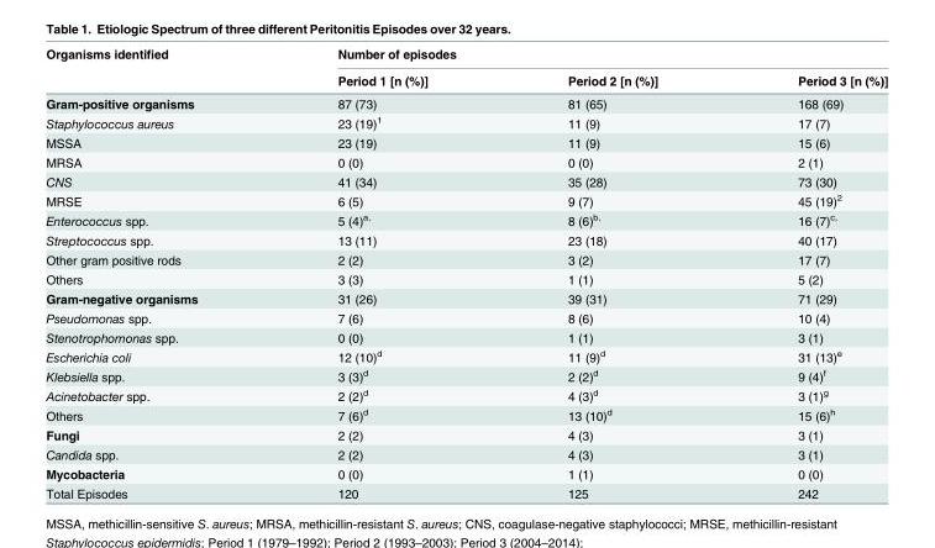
<table><thead><tr><td rowspan="2">Organisms identified</td><td colspan="3">Number of episodes</td></tr><tr><td>Period 1 [n (%)]</td><td>Period 2 [n (%)]</td><td>Period 3 [n (%)]</td></tr></thead><tbody><tr><td>Gram-positive organisms</td><td>87 (73)</td><td>81 (65)</td><td>168 (69)</td></tr><tr><td>Staphylococcus aureus</td><td>23 (19)<sup>1</sup></td><td>11 (9)</td><td>17 (7)</td></tr><tr><td>MSSA</td><td>23 (19)</td><td>11 (9)</td><td>15 (6)</td></tr><tr><td>MRSA</td><td>0 (0)</td><td>0 (0)</td><td>2 (1)</td></tr><tr><td>CNS</td><td>41 (34)</td><td>35 (28)</td><td>73 (30)</td></tr><tr><td>MRSE</td><td>6 (5)</td><td>9 (7)</td><td>45 (19)<sup>2</sup></td></tr><tr><td>Enterococcus spp.</td><td>5 (4)<sup>a,</sup></td><td>8 (6)<sup>b,</sup></td><td>16 (7)<sup>c,</sup></td></tr><tr><td>Streptococcus spp.</td><td>13 (11)</td><td>23 (18)</td><td>40 (17)</td></tr><tr><td>Other gram positive rods</td><td>2 (2)</td><td>3 (2)</td><td>17 (7)</td></tr><tr><td>Others</td><td>3 (3)</td><td>1 (1)</td><td>5 (2)</td></tr><tr><td>Gram-negative organisms</td><td>31 (26)</td><td>39 (31)</td><td>71 (29)</td></tr><tr><td>Pseudomonas spp.</td><td>7 (6)</td><td>8 (6)</td><td>10 (4)</td></tr><tr><td>Stenotrophomonas spp.</td><td>0 (0)</td><td>1 (1)</td><td>3 (1)</td></tr><tr><td>Escherichia coli</td><td>12 (10)<sup>d</sup></td><td>11 (9)<sup>d</sup></td><td>31 (13)<sup>e</sup></td></tr><tr><td>Klebsiella spp.</td><td>3 (3)<sup>d</sup></td><td>2 (2)<sup>d</sup></td><td>9 (4)<sup>f</sup></td></tr><tr><td>Acinetobacter spp.</td><td>2 (2)<sup>d</sup></td><td>4 (3)<sup>d</sup></td><td>3 (1)<sup>g</sup></td></tr><tr><td>Others</td><td>7 (6)<sup>d</sup></td><td>13 (10)<sup>d</sup></td><td>15 (6)<sup>h</sup></td></tr><tr><td>Fungi</td><td>2 (2)</td><td>4 (3)</td><td>3 (1)</td></tr><tr><td>Candida spp.</td><td>2 (2)</td><td>4 (3)</td><td>3 (1)</td></tr><tr><td>Mycobacteria</td><td>0 (0)</td><td>1 (1)</td><td>0 (0)</td></tr><tr><td>Total Episodes</td><td>120</td><td>125</td><td>242</td></tr></tbody></table>